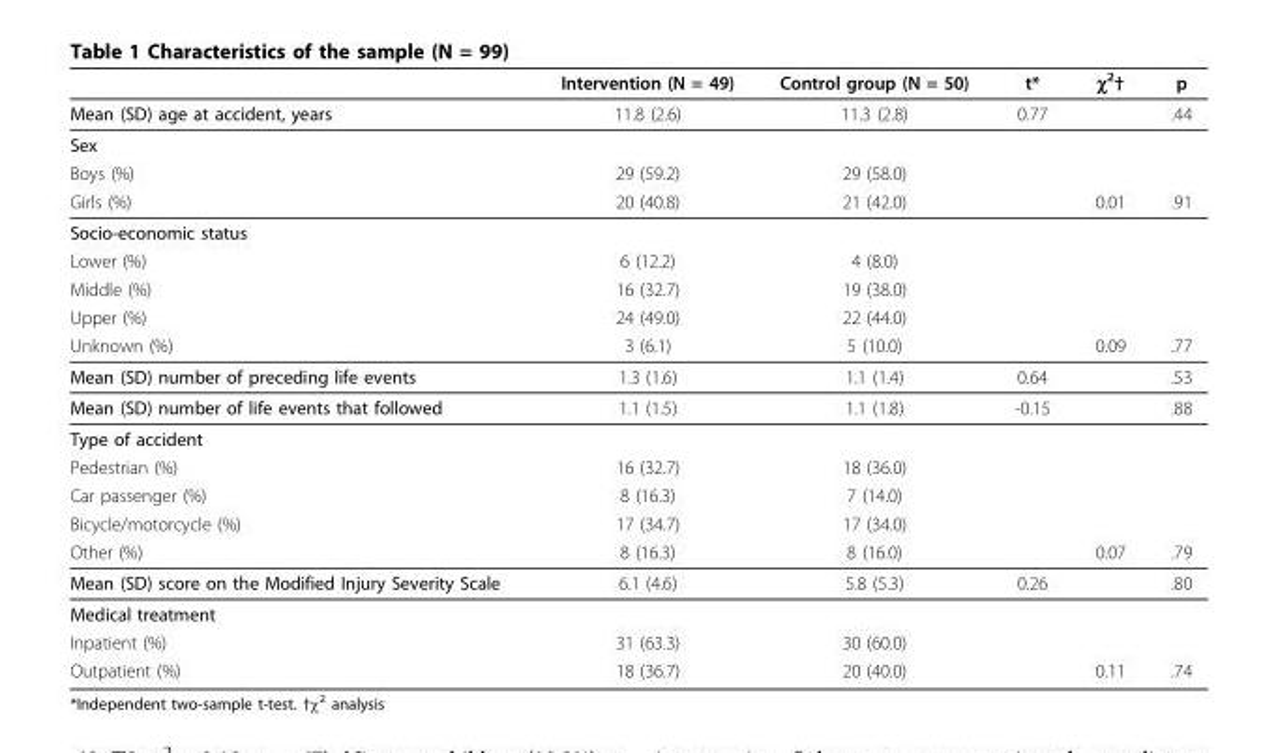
<table><thead><tr><td></td><td>Intervention (N = 49)</td><td>Control group (N = 50)</td><td>t*</td><td>χ<sup>2</sup>†</td><td>p</td></tr></thead><tbody><tr><td>Mean (SD) age at accident, years</td><td>11.8 (2.6)</td><td>11.3 (2.8)</td><td>0.77</td><td></td><td>.44</td></tr><tr><td colspan="6">Sex</td></tr><tr><td>Boys (%)</td><td>29 (59.2)</td><td>29 (58.0)</td><td></td><td></td><td></td></tr><tr><td>Girls (%)</td><td>20 (40.8)</td><td>21 (42.0)</td><td></td><td>0.01</td><td>.91</td></tr><tr><td colspan="6">Socio-economic status</td></tr><tr><td>Lower (%)</td><td>6 (12.2)</td><td>4 (8.0)</td><td></td><td></td><td></td></tr><tr><td>Middle (%)</td><td>16 (32.7)</td><td>19 (38.0)</td><td></td><td></td><td></td></tr><tr><td>Upper (%)</td><td>24 (49.0)</td><td>22 (44.0)</td><td></td><td></td><td></td></tr><tr><td>Unknown (%)</td><td>3 (6.1)</td><td>5 (10.0)</td><td></td><td>0.09</td><td>.77</td></tr><tr><td>Mean (SD) number of preceding life events</td><td>1.3 (1.6)</td><td>1.1 (1.4)</td><td>0.64</td><td></td><td>.53</td></tr><tr><td>Mean (SD) number of life events that followed</td><td>1.1 (1.5)</td><td>1.1 (1.8)</td><td>-0.15</td><td></td><td>.88</td></tr><tr><td colspan="6">Type of accident</td></tr><tr><td>Pedestrian (%)</td><td>16 (32.7)</td><td>18 (36.0)</td><td></td><td></td><td></td></tr><tr><td>Car passenger (%)</td><td>8 (16.3)</td><td>7 (14.0)</td><td></td><td></td><td></td></tr><tr><td>Bicycle/motorcycle (%)</td><td>17 (34.7)</td><td>17 (34.0)</td><td></td><td></td><td></td></tr><tr><td>Other (%)</td><td>8 (16.3)</td><td>8 (16.0)</td><td></td><td>0.07</td><td>.79</td></tr><tr><td>Mean (SD) score on the Modified Injury Severity Scale</td><td>6.1 (4.6)</td><td>5.8 (5.3)</td><td>0.26</td><td></td><td>.80</td></tr><tr><td colspan="6">Medical treatment</td></tr><tr><td>Inpatient (%)</td><td>31 (63.3)</td><td>30 (60.0)</td><td></td><td></td><td></td></tr><tr><td>Outpatient (%)</td><td>18 (36.7)</td><td>20 (40.0)</td><td></td><td>0.11</td><td>.74</td></tr></tbody></table>